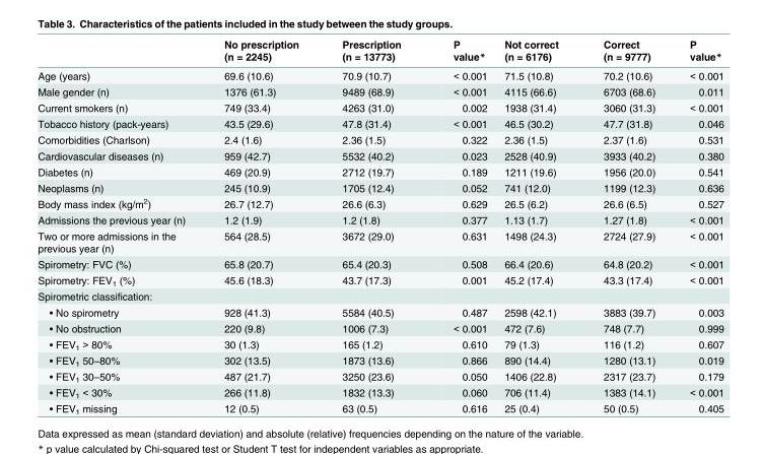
<table><thead><tr><td></td><td>No prescription (n = 2245)</td><td>Prescription (n = 13773)</td><td>P value*</td><td>Not correct (n = 6176)</td><td>Correct (n = 9777)</td><td>P value*</td></tr></thead><tbody><tr><td>Age (years)</td><td>69.6 (10.6)</td><td>70.9 (10.7)</td><td>&lt; 0.001</td><td>71.5 (10.8)</td><td>70.2 (10.6)</td><td>&lt; 0.001</td></tr><tr><td>Male gender (n)</td><td>1376 (61.3)</td><td>9489 (68.9)</td><td>&lt; 0.001</td><td>4115 (66.6)</td><td>6703 (68.6)</td><td>0.011</td></tr><tr><td>Current smokers (n)</td><td>749 (33.4)</td><td>4263 (31.0)</td><td>0.002</td><td>1938 (31.4)</td><td>3060 (31.3)</td><td>&lt; 0.001</td></tr><tr><td>Tobacco history (pack-years)</td><td>43.5 (29.6)</td><td>47.8 (31.4)</td><td>&lt; 0.001</td><td>46.5 (30.2)</td><td>47.7 (31.8)</td><td>0.046</td></tr><tr><td>Comorbidities (Charlson)</td><td>2.4 (1.6)</td><td>2.36 (1.5)</td><td>0.322</td><td>2.36 (1.5)</td><td>2.37 (1.6)</td><td>0.531</td></tr><tr><td>Cardiovascular diseases (n)</td><td>959 (42.7)</td><td>5532 (40.2)</td><td>0.023</td><td>2528 (40.9)</td><td>3933 (40.2)</td><td>0.380</td></tr><tr><td>Diabetes (n)</td><td>469 (20.9)</td><td>2712 (19.7)</td><td>0.189</td><td>1211 (19.6)</td><td>1956 (20.0)</td><td>0.541</td></tr><tr><td>Neoplasms (n)</td><td>245 (10.9)</td><td>1705 (12.4)</td><td>0.052</td><td>741 (12.0)</td><td>1199 (12.3)</td><td>0.636</td></tr><tr><td>Body mass index (kg/m<sup>2</sup>)</td><td>26.7 (12.7)</td><td>26.6 (6.3)</td><td>0.629</td><td>26.5 (6.2)</td><td>26.6 (6.5)</td><td>0.527</td></tr><tr><td>Admissions the previous year (n)</td><td>1.2 (1.9)</td><td>1.2 (1.8)</td><td>0.377</td><td>1.13 (1.7)</td><td>1.27 (1.8)</td><td>&lt; 0.001</td></tr><tr><td>Two or more admissions in the previous year (n)</td><td>564 (28.5)</td><td>3672 (29.0)</td><td>0.631</td><td>1498 (24.3)</td><td>2724 (27.9)</td><td>&lt; 0.001</td></tr><tr><td>Spirometry: FVC (%)</td><td>65.8 (20.7)</td><td>65.4 (20.3)</td><td>0.508</td><td>66.4 (20.6)</td><td>64.8 (20.2)</td><td>&lt; 0.001</td></tr><tr><td>Spirometry: FEV<sub>1</sub> (%)</td><td>45.6 (18.3)</td><td>43.7 (17.3)</td><td>0.001</td><td>45.2 (17.4)</td><td>43.3 (17.4)</td><td>&lt; 0.001</td></tr><tr><td colspan="7">Spirometric classification:</td></tr><tr><td>• No spirometry</td><td>928 (41.3)</td><td>5584 (40.5)</td><td>0.487</td><td>2598 (42.1)</td><td>3883 (39.7)</td><td>0.003</td></tr><tr><td>• No obstruction</td><td>220 (9.8)</td><td>1006 (7.3)</td><td>&lt; 0.001</td><td>472 (7.6)</td><td>748 (7.7)</td><td>0.999</td></tr><tr><td>• FEV<sub>1</sub> &gt; 80%</td><td>30 (1.3)</td><td>165 (1.2)</td><td>0.610</td><td>79 (1.3)</td><td>116 (1.2)</td><td>0.607</td></tr><tr><td>• FEV<sub>1</sub> 50–80%</td><td>302 (13.5)</td><td>1873 (13.6)</td><td>0.866</td><td>890 (14.4)</td><td>1280 (13.1)</td><td>0.019</td></tr><tr><td>• FEV<sub>1</sub> 30–50%</td><td>487 (21.7)</td><td>3250 (23.6)</td><td>0.050</td><td>1406 (22.8)</td><td>2317 (23.7)</td><td>0.179</td></tr><tr><td>• FEV<sub>1</sub> &lt; 30%</td><td>266 (11.8)</td><td>1832 (13.3)</td><td>0.060</td><td>706 (11.4)</td><td>1383 (14.1)</td><td>&lt; 0.001</td></tr><tr><td>• FEV<sub>1</sub> missing</td><td>12 (0.5)</td><td>63 (0.5)</td><td>0.616</td><td>25 (0.4)</td><td>50 (0.5)</td><td>0.405</td></tr></tbody></table>